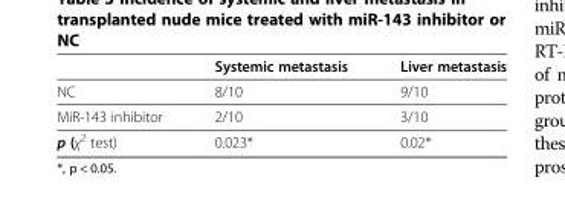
<table><thead><tr><td></td><td>Systemic metastasis</td><td>Liver metastasis</td></tr></thead><tbody><tr><td>NC</td><td>8/10</td><td>9/10</td></tr><tr><td>MiR-143 inhibitor</td><td>2/10</td><td>3/10</td></tr><tr><td>p (χ<sup>2</sup> test)</td><td>0.023*</td><td>0.02*</td></tr></tbody></table>